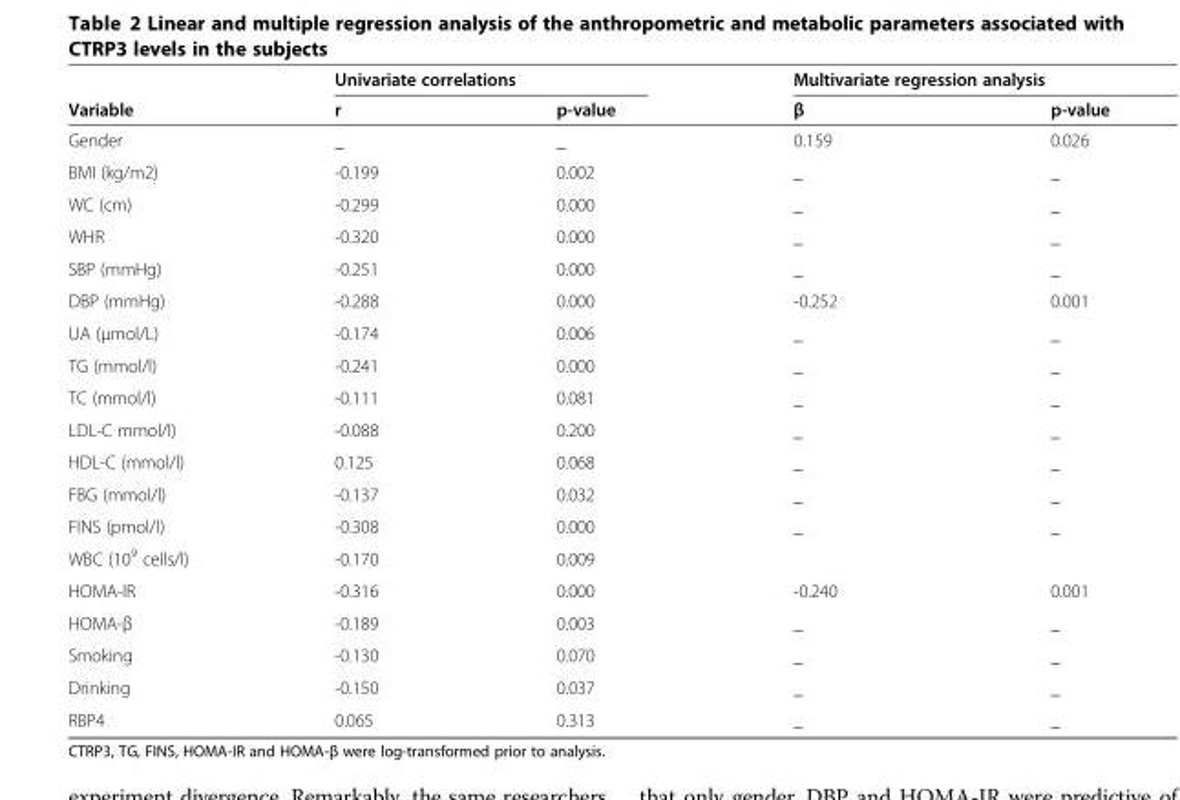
<table><thead><tr><td rowspan="2">Variable</td><td colspan="2">Univariate correlations</td><td colspan="2">Multivariate regression analysis</td></tr><tr><td>r</td><td>p-value</td><td>β</td><td>p-value</td></tr></thead><tbody><tr><td>Gender</td><td>_</td><td>_</td><td>0.159</td><td>0.026</td></tr><tr><td>BMI (kg/m2)</td><td>-0.199</td><td>0.002</td><td>_</td><td>_</td></tr><tr><td>WC (cm)</td><td>-0.299</td><td>0.000</td><td>_</td><td>_</td></tr><tr><td>WHR</td><td>-0.320</td><td>0.000</td><td>_</td><td>_</td></tr><tr><td>SBP (mmHg)</td><td>-0.251</td><td>0.000</td><td>_</td><td>_</td></tr><tr><td>DBP (mmHg)</td><td>-0.288</td><td>0.000</td><td>-0.252</td><td>0.001</td></tr><tr><td>UA (μmol/L)</td><td>-0.174</td><td>0.006</td><td>_</td><td>_</td></tr><tr><td>TG (mmol/l)</td><td>-0.241</td><td>0.000</td><td>_</td><td>_</td></tr><tr><td>TC (mmol/l)</td><td>-0.111</td><td>0.081</td><td>_</td><td>_</td></tr><tr><td>LDL-C mmol/l)</td><td>-0.088</td><td>0.200</td><td>_</td><td>_</td></tr><tr><td>HDL-C (mmol/l)</td><td>0.125</td><td>0.068</td><td>_</td><td>_</td></tr><tr><td>FBG (mmol/l)</td><td>-0.137</td><td>0.032</td><td>_</td><td>_</td></tr><tr><td>FINS (pmol/l)</td><td>-0.308</td><td>0.000</td><td>_</td><td>_</td></tr><tr><td>WBC (10<sup>9</sup> cells/l)</td><td>-0.170</td><td>0.009</td><td></td><td></td></tr><tr><td>HOMA-IR</td><td>-0.316</td><td>0.000</td><td>-0.240</td><td>0.001</td></tr><tr><td>HOMA-β</td><td>-0.189</td><td>0.003</td><td>_</td><td>_</td></tr><tr><td>Smoking</td><td>-0.130</td><td>0.070</td><td>_</td><td>_</td></tr><tr><td>Drinking</td><td>-0.150</td><td>0.037</td><td>_</td><td>_</td></tr><tr><td>RBP4</td><td>0.065</td><td>0.313</td><td>_</td><td>_</td></tr></tbody></table>